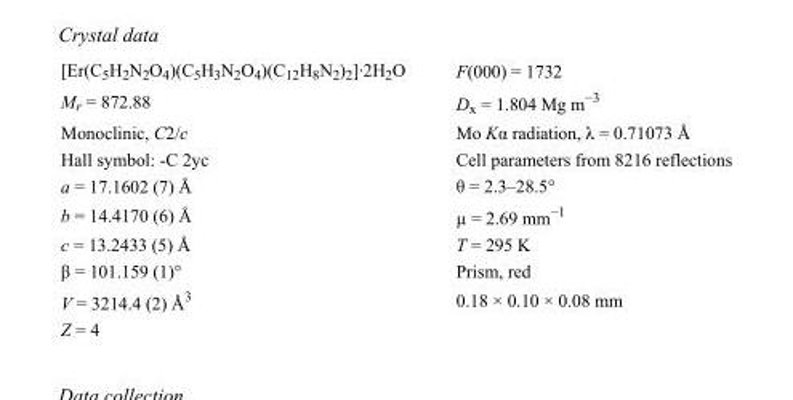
<table><tbody><tr><td>[Er(C<sub>5</sub>H<sub>2</sub>N<sub>2</sub>O<sub>4</sub>)(C<sub>5</sub>H<sub>3</sub>N<sub>2</sub>O<sub>4</sub>)(C<sub>12</sub>H<sub>8</sub>N<sub>2</sub>)<sub>2</sub>]·2H<sub>2</sub>O</td><td>F(000) = 1732</td></tr><tr><td>M<sub>r</sub> = 872.88</td><td>D<sub>x</sub> = 1.804 Mg m<sup>−3</sup></td></tr><tr><td>Monoclinic, C2/c</td><td>Mo Kα radiation, λ = 0.71073 Å</td></tr><tr><td>Hall symbol: -C 2yc</td><td>Cell parameters from 8216 reflections</td></tr><tr><td>a = 17.1602 (7) Å</td><td>θ = 2.3–28.5°</td></tr><tr><td>b = 14.4170 (6) Å</td><td>µ = 2.69 mm<sup>−1</sup></td></tr><tr><td>c = 13.2433 (5) Å</td><td>T = 295 K</td></tr><tr><td>β = 101.159 (1)°</td><td>Prism, red</td></tr><tr><td>V = 3214.4 (2) Å<sup>3</sup></td><td>0.18 × 0.10 × 0.08 mm</td></tr><tr><td>Z = 4</td><td></td></tr></tbody></table>